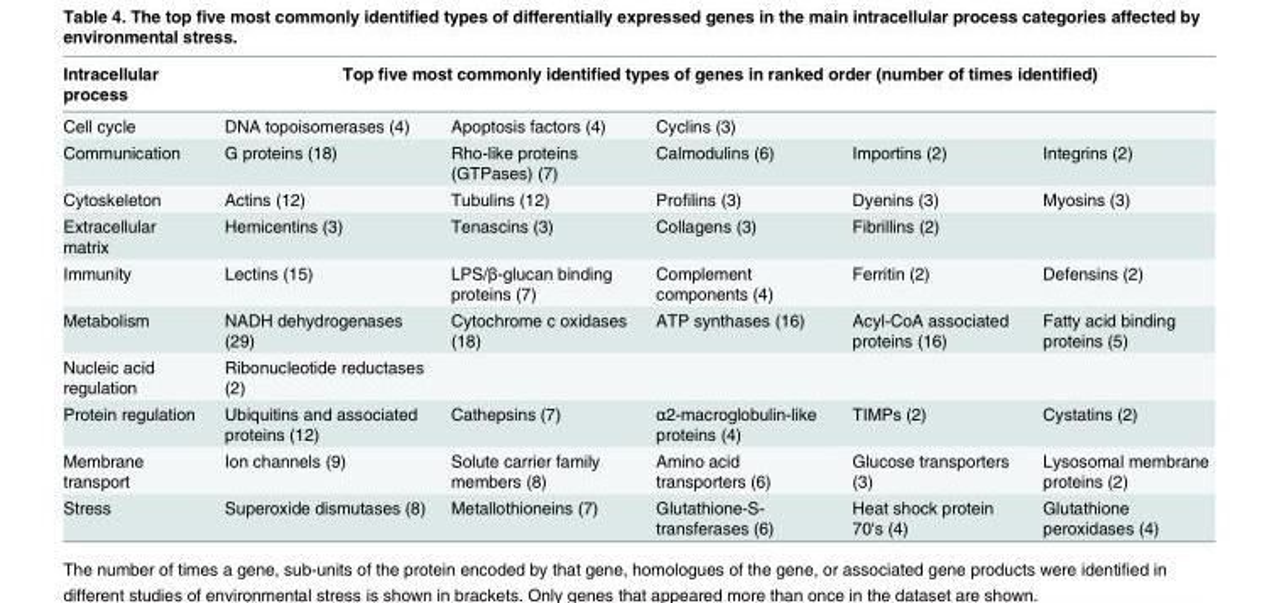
<table><thead><tr><td rowspan="2">Intracellular process Cell cycle</td><td colspan="5">Top five most commonly identified types of genes in ranked order (number of times identified)</td></tr><tr><td>DNA topoisomerases (4)</td><td>Apoptosis factors (4)</td><td>Cyclins (3)</td><td></td><td></td></tr></thead><tbody><tr><td>Communication</td><td>G proteins (18)</td><td>Rho-like proteins (GTPases) (7)</td><td>Calmodulins (6)</td><td>Importins (2)</td><td>Integrins (2)</td></tr><tr><td>Cytoskeleton</td><td>Actins (12)</td><td>Tubulins (12)</td><td>Profilins (3)</td><td>Dyenins (3)</td><td>Myosins (3)</td></tr><tr><td>Extracellular matrix</td><td>Hemicentins (3)</td><td>Tenascins (3)</td><td>Collagens (3)</td><td>Fibrillins (2)</td><td></td></tr><tr><td>Immunity</td><td>Lectins (15)</td><td>LPS/β-glucan binding proteins (7)</td><td>Complement components (4)</td><td>Ferritin (2)</td><td>Defensins (2)</td></tr><tr><td>Metabolism</td><td>NADH dehydrogenases (29)</td><td>Cytochrome c oxidases (18)</td><td>ATP synthases (16)</td><td>Acyl-CoA associated proteins (16)</td><td>Fatty acid binding proteins (5)</td></tr><tr><td>Nucleic acid regulation</td><td>Ribonucleotide reductases (2)</td><td></td><td></td><td></td><td></td></tr><tr><td>Protein regulation</td><td>Ubiquitins and associated proteins (12)</td><td>Cathepsins (7)</td><td>α2-macroglobulin-like proteins (4)</td><td>TIMPs (2)</td><td>Cystatins (2)</td></tr><tr><td>Membrane transport</td><td>Ion channels (9)</td><td>Solute carrier family members (8)</td><td>Amino acid transporters (6)</td><td>Glucose transporters (3)</td><td>Lysosomal membrane proteins (2)</td></tr><tr><td>Stress</td><td>Superoxide dismutases (8)</td><td>Metallothioneins (7)</td><td>Glutathione-S- transferases (6)</td><td>Heat shock protein 70&#x27;s (4)</td><td>Glutathione peroxidases (4)</td></tr></tbody></table>